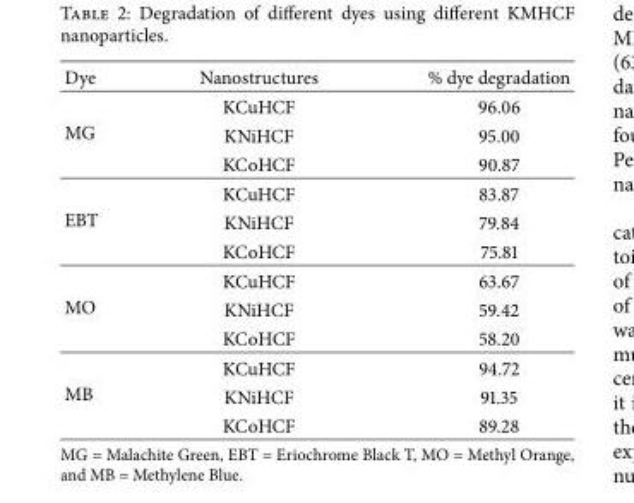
<table><thead><tr><td>Dye</td><td>Nanostructures</td><td>% dye degradation</td></tr></thead><tbody><tr><td rowspan="3">MG</td><td>KCuHCF</td><td>96.06</td></tr><tr><td>KNiHCF</td><td>95.00</td></tr><tr><td>KCoHCF</td><td>90.87</td></tr><tr><td rowspan="3">EBT</td><td>KCuHCF</td><td>83.87</td></tr><tr><td>KNiHCF</td><td>79.84</td></tr><tr><td>KCoHCF</td><td>75.81</td></tr><tr><td rowspan="3">MO</td><td>KCuHCF</td><td>63.67</td></tr><tr><td>KNiHCF</td><td>59.42</td></tr><tr><td>KCoHCF</td><td>58.20</td></tr><tr><td rowspan="3">MB</td><td>KCuHCF</td><td>94.72</td></tr><tr><td>KNiHCF</td><td>91.35</td></tr><tr><td>KCoHCF</td><td>89.28</td></tr></tbody></table>